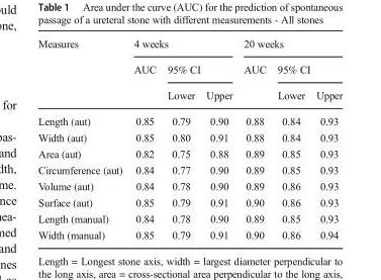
<table><thead><tr><td rowspan="3">Measures</td><td colspan="3">4 weeks</td><td colspan="3">20 weeks</td></tr><tr><td rowspan="2">AUC</td><td colspan="2">95% CI</td><td rowspan="2">AUC</td><td colspan="2">95% CI</td></tr><tr><td>Lower</td><td>Upper</td><td>Lower</td><td>Upper</td></tr></thead><tbody><tr><td>Length (aut)</td><td>0.85</td><td>0.79</td><td>0.90</td><td>0.88</td><td>0.84</td><td>0.93</td></tr><tr><td>Width (aut)</td><td>0.85</td><td>0.80</td><td>0.91</td><td>0.88</td><td>0.84</td><td>0.93</td></tr><tr><td>Area (aut)</td><td>0.82</td><td>0.75</td><td>0.88</td><td>0.89</td><td>0.85</td><td>0.93</td></tr><tr><td>Circumference (aut)</td><td>0.84</td><td>0.77</td><td>0.90</td><td>0.89</td><td>0.85</td><td>0.93</td></tr><tr><td>Volume (aut)</td><td>0.84</td><td>0.78</td><td>0.90</td><td>0.89</td><td>0.86</td><td>0.93</td></tr><tr><td>Surface (aut)</td><td>0.85</td><td>0.79</td><td>0.91</td><td>0.90</td><td>0.86</td><td>0.93</td></tr><tr><td>Length (manual)</td><td>0.84</td><td>0.78</td><td>0.90</td><td>0.89</td><td>0.85</td><td>0.93</td></tr><tr><td>Width (manual)</td><td>0.85</td><td>0.79</td><td>0.91</td><td>0.90</td><td>0.86</td><td>0.94</td></tr></tbody></table>